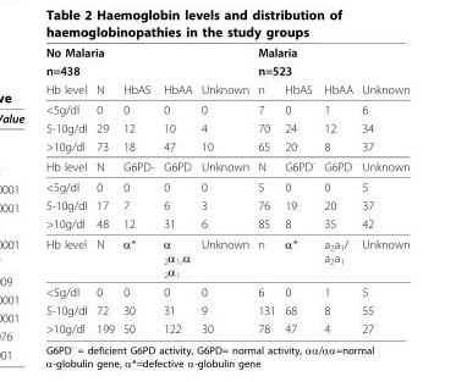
<table><thead><tr><td rowspan="2" colspan="5">No Malaria n=438</td><td rowspan="2" colspan="4">Malaria n=523</td></tr><tr></tr><tr><td>Hb level</td><td>N</td><td>HbAS</td><td>HbAA</td><td>Unknown</td><td>n</td><td>HbAS</td><td>HbAA</td><td>Unknown</td></tr></thead><tbody><tr><td>&lt;5g/dl</td><td>0</td><td>0</td><td>0</td><td>0</td><td>7</td><td>0</td><td>1</td><td>6</td></tr><tr><td>5-10g/dl</td><td>29</td><td>12</td><td>10</td><td>4</td><td>70</td><td>24</td><td>12</td><td>34</td></tr><tr><td>&gt;10g/dl</td><td>73</td><td>18</td><td>47</td><td>10</td><td>65</td><td>20</td><td>8</td><td>37</td></tr><tr><td>Hb level</td><td>N</td><td>G6PD-</td><td>G6PD</td><td>Unknown</td><td>N</td><td>G6PD<sup>-</sup></td><td>G6PD</td><td>Unknown</td></tr><tr><td>&lt;5g/dl</td><td>0</td><td>0</td><td>0</td><td>0</td><td>5</td><td>0</td><td>0</td><td>5</td></tr><tr><td>5-10g/dl</td><td>17</td><td>7</td><td>6</td><td>3</td><td>76</td><td>19</td><td>20</td><td>37</td></tr><tr><td>&gt;10g/dl</td><td>48</td><td>12</td><td>31</td><td>6</td><td>85</td><td>8</td><td>35</td><td>42</td></tr><tr><td>Hb level</td><td>N</td><td>α*</td><td>α <sub>2</sub>α<sub>1/</sub>α <sub>2</sub>α<sub>1</sub></td><td>Unknown</td><td>n</td><td>α*</td><td>a<sub>2</sub>a<sub>1</sub>/ a<sub>2</sub>a<sub>1</sub></td><td>Unknown</td></tr><tr><td>&lt;5g/dl</td><td>0</td><td>0</td><td>0</td><td>0</td><td>6</td><td>0</td><td>1</td><td>5</td></tr><tr><td>5-10g/dl</td><td>72</td><td>30</td><td>31</td><td>9</td><td>131</td><td>68</td><td>8</td><td>55</td></tr><tr><td>&gt;10g/dl</td><td>199</td><td>50</td><td>122</td><td>30</td><td>78</td><td>47</td><td>4</td><td>27</td></tr></tbody></table>